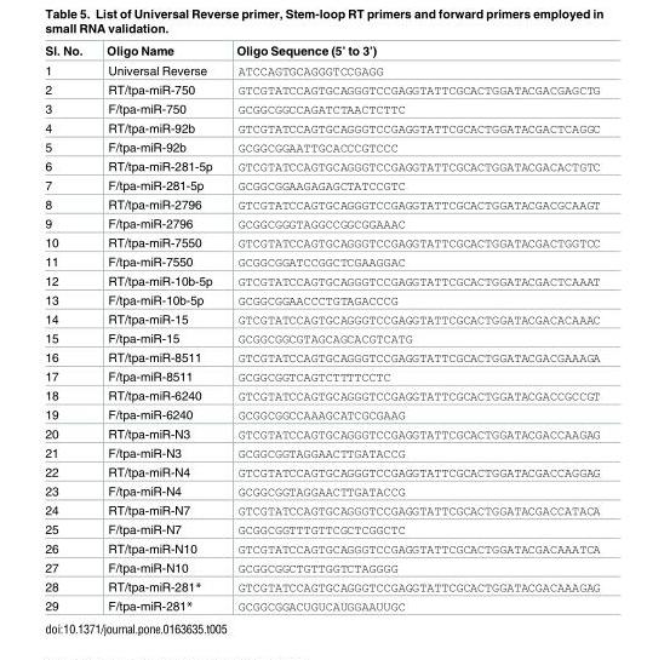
<table><thead><tr><td>Sl. No.</td><td>Oligo Name</td><td>Oligo Sequence (5’ to 3’)</td></tr></thead><tbody><tr><td>1</td><td>Universal Reverse</td><td>ATCCAGTGCAGGGTCCGAGG</td></tr><tr><td>2</td><td>RT/tpa-miR-750</td><td>GTCGTATCCAGTGCAGGGTCCGAGGTATTCGCACTGGATACGACGAGCTG</td></tr><tr><td>3</td><td>F/tpa-miR-750</td><td>GCGGCGGCCAGATCTAACTCTTC</td></tr><tr><td>4</td><td>RT/tpa-miR-92b</td><td>GTCGTATCCAGTGCAGGGTCCGAGGTATTCGCACTGGATACGACTCAGGC</td></tr><tr><td>5</td><td>F/tpa-miR-92b</td><td>GCGGCGGAATTGCACCCGTCCC</td></tr><tr><td>6</td><td>RT/tpa-miR-281-5p</td><td>GTCGTATCCAGTGCAGGGTCCGAGGTATTCGCACTGGATACGACACTGTC</td></tr><tr><td>7</td><td>F/tpa-miR-281-5p</td><td>GCGGCGGAAGAGAGCTATCCGTC</td></tr><tr><td>8</td><td>RT/tpa-miR-2796</td><td>GTCGTATCCAGTGCAGGGTCCGAGGTATTCGCACTGGATACGACGCAAGT</td></tr><tr><td>9</td><td>F/tpa-miR-2796</td><td>GCGGCGGGTAGGCCGGCGGAAAC</td></tr><tr><td>10</td><td>RT/tpa-miR-7550</td><td>GTCGTATCCAGTGCAGGGTCCGAGGTATTCGCACTGGATACGACTGGTCC</td></tr><tr><td>11</td><td>F/tpa-miR-7550</td><td>GCGGCGGATCCGGCTCGAAGGAC</td></tr><tr><td>12</td><td>RT/tpa-miR-10b-5p</td><td>GTCGTATCCAGTGCAGGGTCCGAGGTATTCGCACTGGATACGACTCAAAT</td></tr><tr><td>13</td><td>F/tpa-miR-10b-5p</td><td>GCGGCGGAACCCTGTAGACCCG</td></tr><tr><td>14</td><td>RT/tpa-miR-15</td><td>GTCGTATCCAGTGCAGGGTCCGAGGTATTCGCACTGGATACGACACAAAC</td></tr><tr><td>15</td><td>F/tpa-miR-15</td><td>GCGGCGGCGTAGCAGCACGTCATG</td></tr><tr><td>16</td><td>RT/tpa-miR-8511</td><td>GTCGTATCCAGTGCAGGGTCCGAGGTATTCGCACTGGATACGACGAAAGA</td></tr><tr><td>17</td><td>F/tpa-miR-8511</td><td>GCGGCGGTCAGTCTTTTCCTC</td></tr><tr><td>18</td><td>RT/tpa-miR-6240</td><td>GTCGTATCCAGTGCAGGGTCCGAGGTATTCGCACTGGATACGACCGCCGT</td></tr><tr><td>19</td><td>F/tpa-miR-6240</td><td>GCGGCGGCCAAAGCATCGCGAAG</td></tr><tr><td>20</td><td>RT/tpa-miR-N3</td><td>GTCGTATCCAGTGCAGGGTCCGAGGTATTCGCACTGGATACGACCAAGAG</td></tr><tr><td>21</td><td>F/tpa-miR-N3</td><td>GCGGCGGTAGGAACTTGATACCG</td></tr><tr><td>22</td><td>RT/tpa-miR-N4</td><td>GTCGTATCCAGTGCAGGGTCCGAGGTATTCGCACTGGATACGACCAGGAG</td></tr><tr><td>23</td><td>F/tpa-miR-N4</td><td>GCGGCGGTAGGAACTTGATACCG</td></tr><tr><td>24</td><td>RT/tpa-miR-N7</td><td>GTCGTATCCAGTGCAGGGTCCGAGGTATTCGCACTGGATACGACCATACA</td></tr><tr><td>25</td><td>F/tpa-miR-N7</td><td>GCGGCGGTTTGTTCGCTCGGCTC</td></tr><tr><td>26</td><td>RT/tpa-miR-N10</td><td>GTCGTATCCAGTGCAGGGTCCGAGGTATTCGCACTGGATACGACAAATCA</td></tr><tr><td>27</td><td>F/tpa-miR-N10</td><td>GCGGCGGCTGTTGGTCTAGGGG</td></tr><tr><td>28</td><td>RT/tpa-miR-281*</td><td>GTCGTATCCAGTGCAGGGTCCGAGGTATTCGCACTGGATACGACAAAGAG</td></tr><tr><td>29</td><td>F/tpa-miR-281*</td><td>GCGGCGGACUGUCAUGGAAUUGC</td></tr></tbody></table>